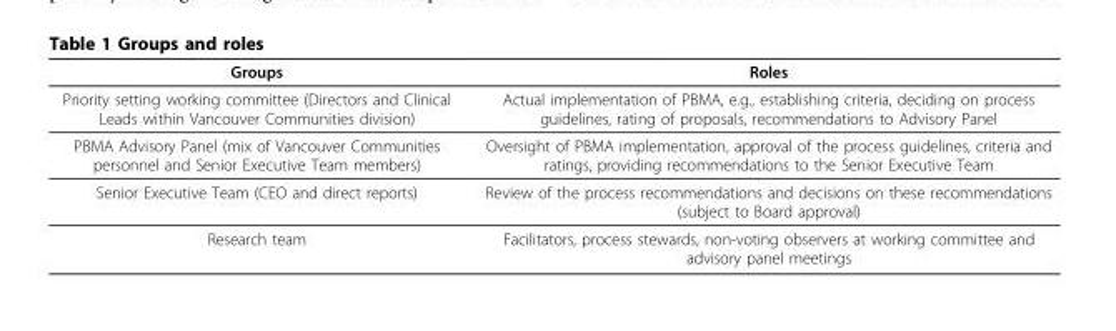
<table><thead><tr><td>Groups</td><td>Roles</td></tr></thead><tbody><tr><td>Priority setting working committee (Directors and Clinical Leads within Vancouver Communities division)</td><td>Actual implementation of PBMA, e.g., establishing criteria, deciding on process guidelines, rating of proposals, recommendations to Advisory Panel</td></tr><tr><td>PBMA Advisory Panel (mix of Vancouver Communities personnel and Senior Executive Team members)</td><td>Oversight of PBMA implementation, approval of the process guidelines, criteria and ratings, providing recommendations to the Senior Executive Team</td></tr><tr><td>Senior Executive Team (CEO and direct reports)</td><td>Review of the process recommendations and decisions on these recommendations (subject to Board approval)</td></tr><tr><td>Research team</td><td>Facilitators, process stewards, non-voting observers at working committee and advisory panel meetings</td></tr></tbody></table>